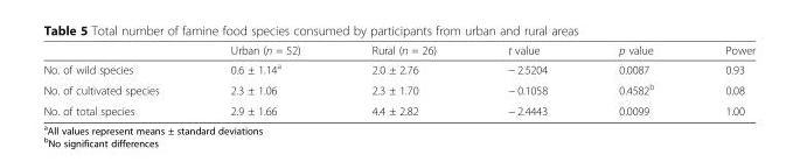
<table><thead><tr><td></td><td>Urban (n = 52)</td><td>Rural (n = 26)</td><td>t value</td><td>p value</td><td>Power</td></tr></thead><tbody><tr><td>No. of wild species</td><td>0.6 ± 1.14<sup>a</sup></td><td>2.0 ± 2.76</td><td>− 2.5204</td><td>0.0087</td><td>0.93</td></tr><tr><td>No. of cultivated species</td><td>2.3 ± 1.06</td><td>2.3 ± 1.70</td><td>− 0.1058</td><td>0.4582<sup>b</sup></td><td>0.08</td></tr><tr><td>No. of total species</td><td>2.9 ± 1.66</td><td>4.4 ± 2.82</td><td>− 2.4443</td><td>0.0099</td><td>1.00</td></tr></tbody></table>